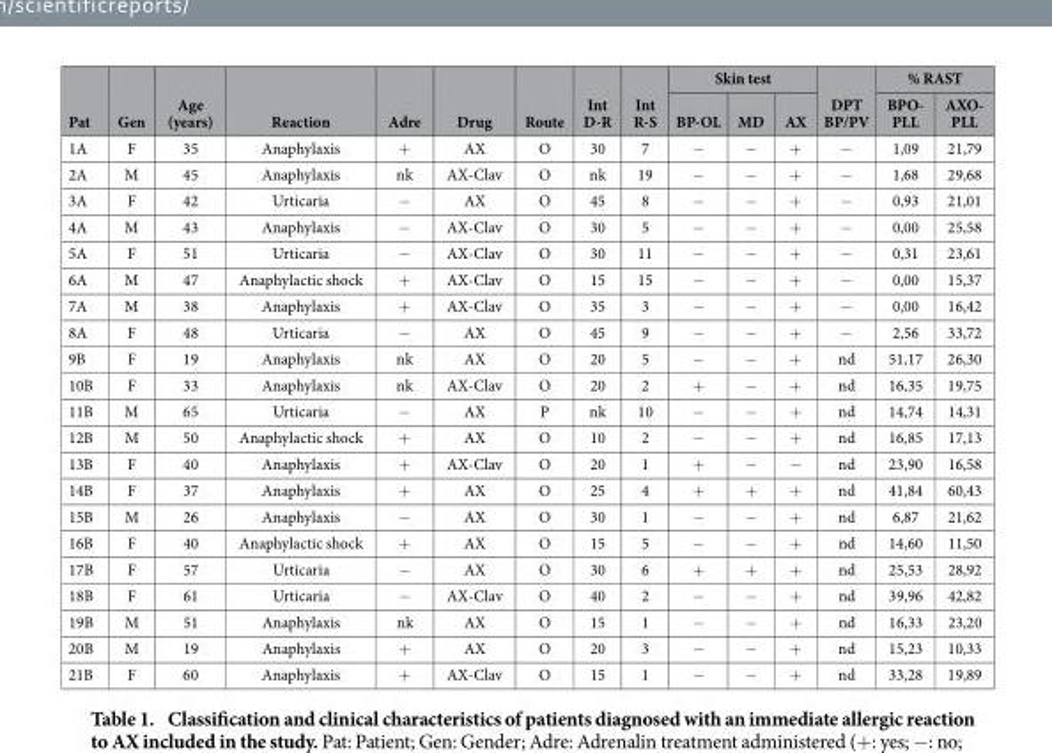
<table><thead><tr><td rowspan="2">Pat</td><td rowspan="2">Gen</td><td rowspan="2">Age (years)</td><td rowspan="2">Reaction</td><td rowspan="2">Adre</td><td rowspan="2">Drug</td><td rowspan="2">Route</td><td rowspan="2">Int D-R</td><td rowspan="2">Int R-S</td><td colspan="3">Skin test</td><td rowspan="2">DPT BP/PV</td><td colspan="2">% RAST</td></tr><tr><td>BP-OL</td><td>MD</td><td>AX</td><td>BPO- PLL</td><td>AXO- PLL</td></tr></thead><tbody><tr><td>1A</td><td>F</td><td>35</td><td>Anaphylaxis</td><td>+</td><td>AX</td><td>O</td><td>30</td><td>7</td><td>−</td><td>−</td><td>+</td><td>−</td><td>1,09</td><td>21,79</td></tr><tr><td>2A</td><td>M</td><td>45</td><td>Anaphylaxis</td><td>nk</td><td>AX-Clav</td><td>O</td><td>nk</td><td>19</td><td>−</td><td>−</td><td>+</td><td>−</td><td>1,68</td><td>29,68</td></tr><tr><td>3A</td><td>F</td><td>42</td><td>Urticaria</td><td>−</td><td>AX</td><td>O</td><td>45</td><td>8</td><td>−</td><td>−</td><td>+</td><td>−</td><td>0,93</td><td>21,01</td></tr><tr><td>4A</td><td>M</td><td>43</td><td>Anaphylaxis</td><td>−</td><td>AX-Clav</td><td>O</td><td>30</td><td>5</td><td>−</td><td>−</td><td>+</td><td>−</td><td>0,00</td><td>25,58</td></tr><tr><td>5A</td><td>F</td><td>51</td><td>Urticaria</td><td>−</td><td>AX-Clav</td><td>O</td><td>30</td><td>11</td><td>−</td><td>−</td><td>+</td><td>−</td><td>0,31</td><td>23,61</td></tr><tr><td>6A</td><td>M</td><td>47</td><td>Anaphylactic shock</td><td>+</td><td>AX-Clav</td><td>O</td><td>15</td><td>15</td><td>−</td><td>−</td><td>+</td><td>−</td><td>0,00</td><td>15,37</td></tr><tr><td>7A</td><td>M</td><td>38</td><td>Anaphylaxis</td><td>+</td><td>AX-Clav</td><td>O</td><td>35</td><td>3</td><td>−</td><td>−</td><td>+</td><td>−</td><td>0,00</td><td>16,42</td></tr><tr><td>8A</td><td>F</td><td>48</td><td>Urticaria</td><td>−</td><td>AX</td><td>O</td><td>45</td><td>9</td><td>−</td><td>−</td><td>+</td><td>−</td><td>2,56</td><td>33,72</td></tr><tr><td>9B</td><td>F</td><td>19</td><td>Anaphylaxis</td><td>nk</td><td>AX</td><td>O</td><td>20</td><td>5</td><td>−</td><td>−</td><td>+</td><td>nd</td><td>51,17</td><td>26,30</td></tr><tr><td>10B</td><td>F</td><td>33</td><td>Anaphylaxis</td><td>nk</td><td>AX-Clav</td><td>O</td><td>20</td><td>2</td><td>+</td><td>−</td><td>+</td><td>nd</td><td>16,35</td><td>19,75</td></tr><tr><td>11B</td><td>M</td><td>65</td><td>Urticaria</td><td>−</td><td>AX</td><td>P</td><td>nk</td><td>10</td><td>−</td><td>−</td><td>+</td><td>nd</td><td>14,74</td><td>14,31</td></tr><tr><td>12B</td><td>M</td><td>50</td><td>Anaphylactic shock</td><td>+</td><td>AX</td><td>O</td><td>10</td><td>2</td><td>−</td><td>−</td><td>+</td><td>nd</td><td>16,85</td><td>17,13</td></tr><tr><td>13B</td><td>F</td><td>40</td><td>Anaphylaxis</td><td>+</td><td>AX-Clav</td><td>O</td><td>20</td><td>1</td><td>+</td><td>−</td><td>−</td><td>nd</td><td>23,90</td><td>16,58</td></tr><tr><td>14B</td><td>F</td><td>37</td><td>Anaphylaxis</td><td>+</td><td>AX</td><td>O</td><td>25</td><td>4</td><td>+</td><td>+</td><td>+</td><td>nd</td><td>41,84</td><td>60,43</td></tr><tr><td>15B</td><td>M</td><td>26</td><td>Anaphylaxis</td><td>−</td><td>AX</td><td>O</td><td>30</td><td>1</td><td>−</td><td>−</td><td>+</td><td>nd</td><td>6,87</td><td>21,62</td></tr><tr><td>16B</td><td>F</td><td>40</td><td>Anaphylactic shock</td><td>+</td><td>AX</td><td>O</td><td>15</td><td>5</td><td>−</td><td>−</td><td>+</td><td>nd</td><td>14,60</td><td>11,50</td></tr><tr><td>17B</td><td>F</td><td>57</td><td>Urticaria</td><td>−</td><td>AX</td><td>O</td><td>30</td><td>6</td><td>+</td><td>+</td><td>+</td><td>nd</td><td>25,53</td><td>28,92</td></tr><tr><td>18B</td><td>F</td><td>61</td><td>Urticaria</td><td>−</td><td>AX-Clav</td><td>O</td><td>40</td><td>2</td><td>−</td><td>−</td><td>+</td><td>nd</td><td>39,96</td><td>42,82</td></tr><tr><td>19B</td><td>M</td><td>51</td><td>Anaphylaxis</td><td>nk</td><td>AX</td><td>O</td><td>15</td><td>1</td><td>−</td><td>−</td><td>+</td><td>nd</td><td>16,33</td><td>23,20</td></tr><tr><td>20B</td><td>M</td><td>19</td><td>Anaphylaxis</td><td>+</td><td>AX</td><td>O</td><td>20</td><td>3</td><td>−</td><td>−</td><td>+</td><td>nd</td><td>15,23</td><td>10,33</td></tr><tr><td>21B</td><td>F</td><td>60</td><td>Anaphylaxis</td><td>+</td><td>AX-Clav</td><td>O</td><td>15</td><td>1</td><td>−</td><td>−</td><td>+</td><td>nd</td><td>33,28</td><td>19,89</td></tr></tbody></table>